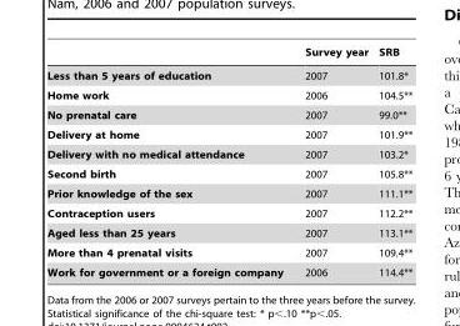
<table><thead><tr><td></td><td>Survey year</td><td>SRB</td></tr></thead><tbody><tr><td>Less than 5 years of education</td><td>2007</td><td>101.8*</td></tr><tr><td>Home work</td><td>2006</td><td>104.5**</td></tr><tr><td>No prenatal care</td><td>2007</td><td>99.0**</td></tr><tr><td>Delivery at home</td><td>2007</td><td>101.9**</td></tr><tr><td>Delivery with no medical attendance</td><td>2007</td><td>103.2*</td></tr><tr><td>Second birth</td><td>2007</td><td>105.8**</td></tr><tr><td>Prior knowledge of the sex</td><td>2007</td><td>111.1**</td></tr><tr><td>Contraception users</td><td>2007</td><td>112.2**</td></tr><tr><td>Aged less than 25 years</td><td>2007</td><td>113.1**</td></tr><tr><td>More than 4 prenatal visits</td><td>2007</td><td>109.4**</td></tr><tr><td>Work for government or a foreign company</td><td>2006</td><td>114.4**</td></tr></tbody></table>